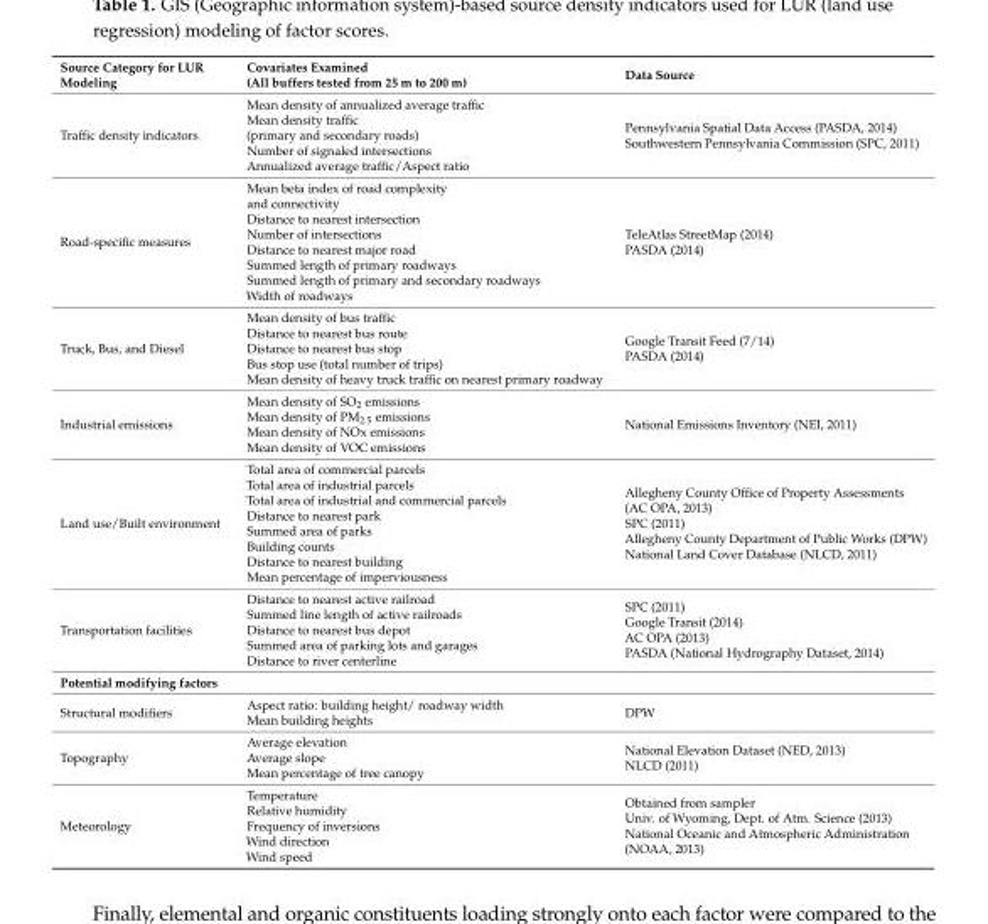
<table><thead><tr><td>Source Category for LUR Modeling</td><td>Covariates Examined (All buffers tested from 25 m to 200 m)</td><td>Data Source</td></tr></thead><tbody><tr><td>Traffic density indicators</td><td>Mean density of annualized average traffic Mean density traffic (primary and secondary roads) Number of signaled intersections Annualized average traffic/Aspect ratio</td><td>Pennsylvania Spatial Data Access (PASDA, 2014) Southwestern Pennsylvania Commission (SPC, 2011)</td></tr><tr><td>Road-specific measures</td><td>Mean beta index of road complexity and connectivity Distance to nearest intersection Number of intersections Distance to nearest major road Summed length of primary roadways Summed length of primary and secondary roadways Width of roadways</td><td>TeleAtlas StreetMap (2014) PASDA (2014)</td></tr><tr><td>Truck, Bus, and Diesel</td><td>Mean density of bus traffic Distance to nearest bus route Distance to nearest bus stop Bus stop use (total number of trips) Mean density of heavy truck traffic on nearest primary roadway</td><td>Google Transit Feed (7/14) PASDA (2014)</td></tr><tr><td>Industrial emissions</td><td>Mean density of SO<sub>2</sub> emissions Mean density of PM<sub>2.5</sub> emissions Mean density of NOx emissions Mean density of VOC emissions</td><td>National Emissions Inventory (NEI, 2011)</td></tr><tr><td>Land use/Built environment</td><td>Total area of commercial parcels Total area of industrial parcels Total area of industrial and commercial parcels Distance to nearest park Summed area of parks Building counts Distance to nearest building Mean percentage of imperviousness</td><td>Allegheny County Office of Property Assessments (AC OPA, 2013) SPC (2011) Allegheny County Department of Public Works (DPW) National Land Cover Database (NLCD, 2011)</td></tr><tr><td>Transportation facilities</td><td>Distance to nearest active railroad Summed line length of active railroads Distance to nearest bus depot Summed area of parking lots and garages Distance to river centerline</td><td>SPC (2011) Google Transit (2014) AC OPA (2013) PASDA (National Hydrography Dataset, 2014)</td></tr><tr><td colspan="3">Potential modifying factors</td></tr><tr><td>Structural modifiers</td><td>Aspect ratio: building height/ roadway width Mean building heights</td><td>DPW</td></tr><tr><td>Topography</td><td>Average elevation Average slope Mean percentage of tree canopy</td><td>National Elevation Dataset (NED, 2013) NLCD (2011)</td></tr><tr><td>Meteorology</td><td>Temperature Relative humidity Frequency of inversions Wind direction Wind speed</td><td>Obtained from sampler Univ. of Wyoming, Dept. of Atm. Science (2013) National Oceanic and Atmospheric Administration (NOAA, 2013)</td></tr></tbody></table>